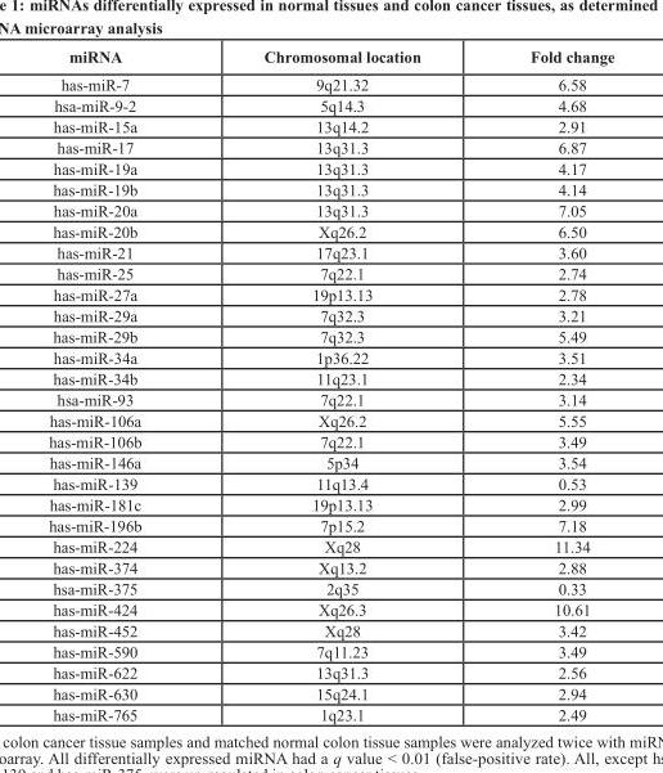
<table><thead><tr><td>miRNA</td><td>Chromosomal location</td><td>Fold change</td></tr></thead><tbody><tr><td>has-miR-7</td><td>9q21.32</td><td>6.58</td></tr><tr><td>hsa-miR-9-2</td><td>5q14.3</td><td>4.68</td></tr><tr><td>has-miR-15a</td><td>13q14.2</td><td>2.91</td></tr><tr><td>has-miR-17</td><td>13q31.3</td><td>6.87</td></tr><tr><td>has-miR-19a</td><td>13q31.3</td><td>4.17</td></tr><tr><td>has-miR-19b</td><td>13q31.3</td><td>4.14</td></tr><tr><td>has-miR-20a</td><td>13q31.3</td><td>7.05</td></tr><tr><td>has-miR-20b</td><td>Xq26.2</td><td>6.50</td></tr><tr><td>has-miR-21</td><td>17q23.1</td><td>3.60</td></tr><tr><td>has-miR-25</td><td>7q22.1</td><td>2.74</td></tr><tr><td>has-miR-27a</td><td>19p13.13</td><td>2.78</td></tr><tr><td>has-miR-29a</td><td>7q32.3</td><td>3.21</td></tr><tr><td>has-miR-29b</td><td>7q32.3</td><td>5.49</td></tr><tr><td>has-miR-34a</td><td>1p36.22</td><td>3.51</td></tr><tr><td>has-miR-34b</td><td>11q23.1</td><td>2.34</td></tr><tr><td>hsa-miR-93</td><td>7q22.1</td><td>3.14</td></tr><tr><td>has-miR-106a</td><td>Xq26.2</td><td>5.55</td></tr><tr><td>has-miR-106b</td><td>7q22.1</td><td>3.49</td></tr><tr><td>has-miR-146a</td><td>5p34</td><td>3.54</td></tr><tr><td>has-miR-139</td><td>11q13.4</td><td>0.53</td></tr><tr><td>has-miR-181c</td><td>19p13.13</td><td>2.99</td></tr><tr><td>has-miR-196b</td><td>7p15.2</td><td>7.18</td></tr><tr><td>has-miR-224</td><td>Xq28</td><td>11.34</td></tr><tr><td>has-miR-374</td><td>Xq13.2</td><td>2.88</td></tr><tr><td>hsa-miR-375</td><td>2q35</td><td>0.33</td></tr><tr><td>has-miR-424</td><td>Xq26.3</td><td>10.61</td></tr><tr><td>has-miR-452</td><td>Xq28</td><td>3.42</td></tr><tr><td>has-miR-590</td><td>7q11.23</td><td>3.49</td></tr><tr><td>has-miR-622</td><td>13q31.3</td><td>2.56</td></tr><tr><td>has-miR-630</td><td>15q24.1</td><td>2.94</td></tr><tr><td>has-miR-765</td><td>1q23.1</td><td>2.49</td></tr></tbody></table>